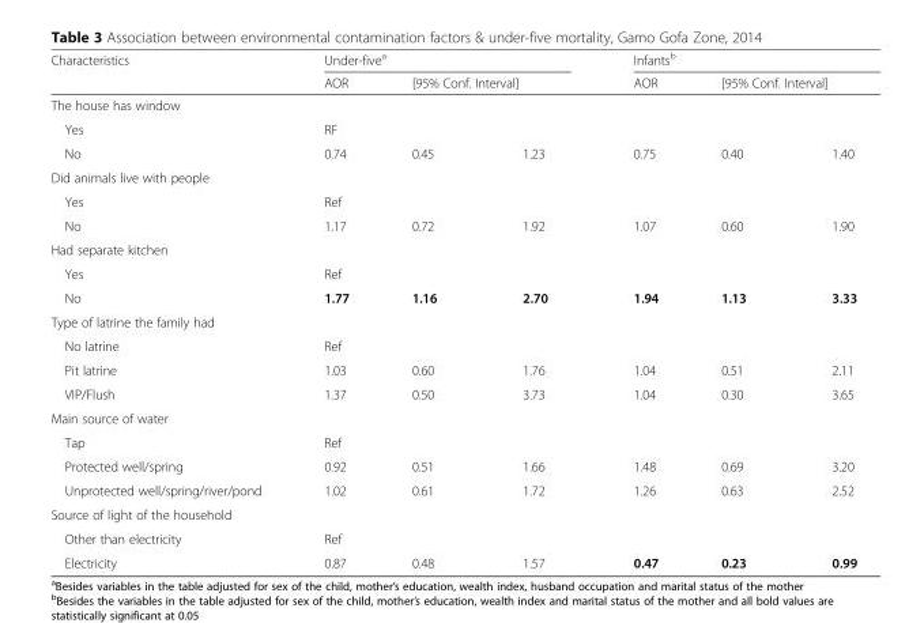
<table><thead><tr><td rowspan="2">Characteristics</td><td colspan="3">Under-five<sup>a</sup></td><td colspan="3">Infants<sup>b</sup></td></tr><tr><td>AOR</td><td colspan="2">[95% Conf. Interval]</td><td>AOR</td><td colspan="2">[95% Conf. Interval]</td></tr><tr><td colspan="7">The house has window</td></tr><tr><td>Yes</td><td>RF</td><td></td><td></td><td></td><td></td><td></td></tr></thead><tbody><tr><td>No</td><td>0.74</td><td>0.45</td><td>1.23</td><td>0.75</td><td>0.40</td><td>1.40</td></tr><tr><td colspan="7">Did animals live with people</td></tr><tr><td>Yes</td><td>Ref</td><td></td><td></td><td></td><td></td><td></td></tr><tr><td>No</td><td>1.17</td><td>0.72</td><td>1.92</td><td>1.07</td><td>0.60</td><td>1.90</td></tr><tr><td colspan="7">Had separate kitchen</td></tr><tr><td>Yes</td><td>Ref</td><td></td><td></td><td></td><td></td><td></td></tr><tr><td>No</td><td>1.77</td><td>1.16</td><td>2.70</td><td>1.94</td><td>1.13</td><td>3.33</td></tr><tr><td colspan="7">Type of latrine the family had</td></tr><tr><td>No latrine</td><td>Ref</td><td></td><td></td><td></td><td></td><td></td></tr><tr><td>Pit latrine</td><td>1.03</td><td>0.60</td><td>1.76</td><td>1.04</td><td>0.51</td><td>2.11</td></tr><tr><td>VIP/Flush</td><td>1.37</td><td>0.50</td><td>3.73</td><td>1.04</td><td>0.30</td><td>3.65</td></tr><tr><td colspan="7">Main source of water</td></tr><tr><td>Tap</td><td>Ref</td><td></td><td></td><td></td><td></td><td></td></tr><tr><td>Protected well/spring</td><td>0.92</td><td>0.51</td><td>1.66</td><td>1.48</td><td>0.69</td><td>3.20</td></tr><tr><td>Unprotected well/spring/river/pond</td><td>1.02</td><td>0.61</td><td>1.72</td><td>1.26</td><td>0.63</td><td>2.52</td></tr><tr><td colspan="7">Source of light of the household</td></tr><tr><td>Other than electricity</td><td>Ref</td><td></td><td></td><td></td><td></td><td></td></tr><tr><td>Electricity</td><td>0.87</td><td>0.48</td><td>1.57</td><td>0.47</td><td>0.23</td><td>0.99</td></tr></tbody></table>